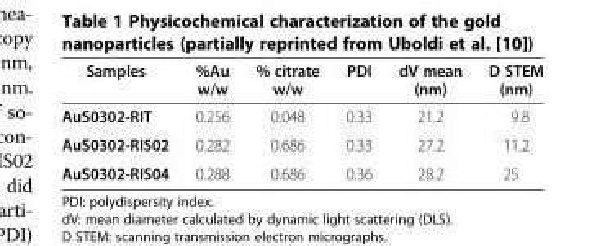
<table><thead><tr><td>Samples</td><td>%Au w/w</td><td>% citrate w/w</td><td>PDI</td><td>dV mean (nm)</td><td>D STEM (nm)</td></tr></thead><tbody><tr><td>AuS0302-RIT</td><td>0.256</td><td>0.048</td><td>0.33</td><td>21.2</td><td>9.8</td></tr><tr><td>AuS0302-RIS02</td><td>0.282</td><td>0.686</td><td>0.33</td><td>27.2</td><td>11.2</td></tr><tr><td>AuS0302-RIS04</td><td>0.288</td><td>0.686</td><td>0.36</td><td>28.2</td><td>25</td></tr></tbody></table>